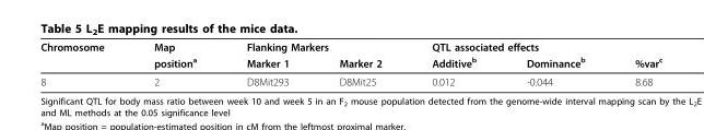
<table><thead><tr><td rowspan="2">Chromosome</td><td rowspan="2">Map position<sup>a</sup></td><td colspan="2">Flanking Markers</td><td colspan="3">QTL associated effects</td></tr><tr><td>Marker 1</td><td>Marker 2</td><td>Additive<sup>b</sup></td><td>Dominance<sup>b</sup></td><td>%var<sup>c</sup></td></tr></thead><tbody><tr><td>8</td><td>2</td><td>D8Mit293</td><td>D8Mit25</td><td>0.012</td><td>-0.044</td><td>8.68</td></tr></tbody></table>